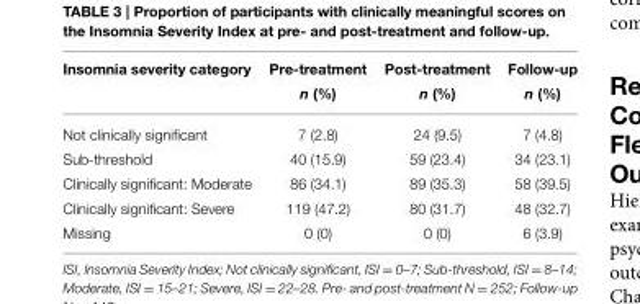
<table><thead><tr><td>Insomnia severity category</td><td>Pre-treatment n (%)</td><td>Post-treatment n (%)</td><td>Follow-up n (%)</td></tr></thead><tbody><tr><td>Not clinically significant</td><td>7 (2.8)</td><td>24 (9.5)</td><td>7 (4.8)</td></tr><tr><td>Sub-threshold</td><td>40 (15.9)</td><td>59 (23.4)</td><td>34 (23.1)</td></tr><tr><td>Clinically significant: Moderate</td><td>86 (34.1)</td><td>89 (35.3)</td><td>58 (39.5)</td></tr><tr><td>Clinically significant: Severe</td><td>119 (47.2)</td><td>80 (31.7)</td><td>48 (32.7)</td></tr><tr><td>Missing</td><td>0 (0)</td><td>0 (0)</td><td>6 (3.9)</td></tr></tbody></table>